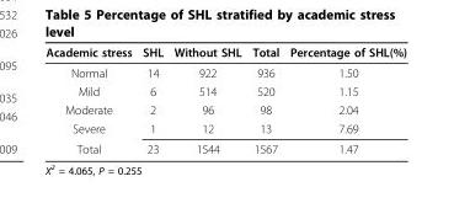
<table><thead><tr><td>Academic stress</td><td>SHL</td><td>Without SHL</td><td>Total</td><td>Percentage of SHL(%)</td></tr></thead><tbody><tr><td>Normal</td><td>14</td><td>922</td><td>936</td><td>1.50</td></tr><tr><td>Mild</td><td>6</td><td>514</td><td>520</td><td>1.15</td></tr><tr><td>Moderate</td><td>2</td><td>96</td><td>98</td><td>2.04</td></tr><tr><td>Severe</td><td>1</td><td>12</td><td>13</td><td>7.69</td></tr><tr><td>Total</td><td>23</td><td>1544</td><td>1567</td><td>1.47</td></tr></tbody></table>